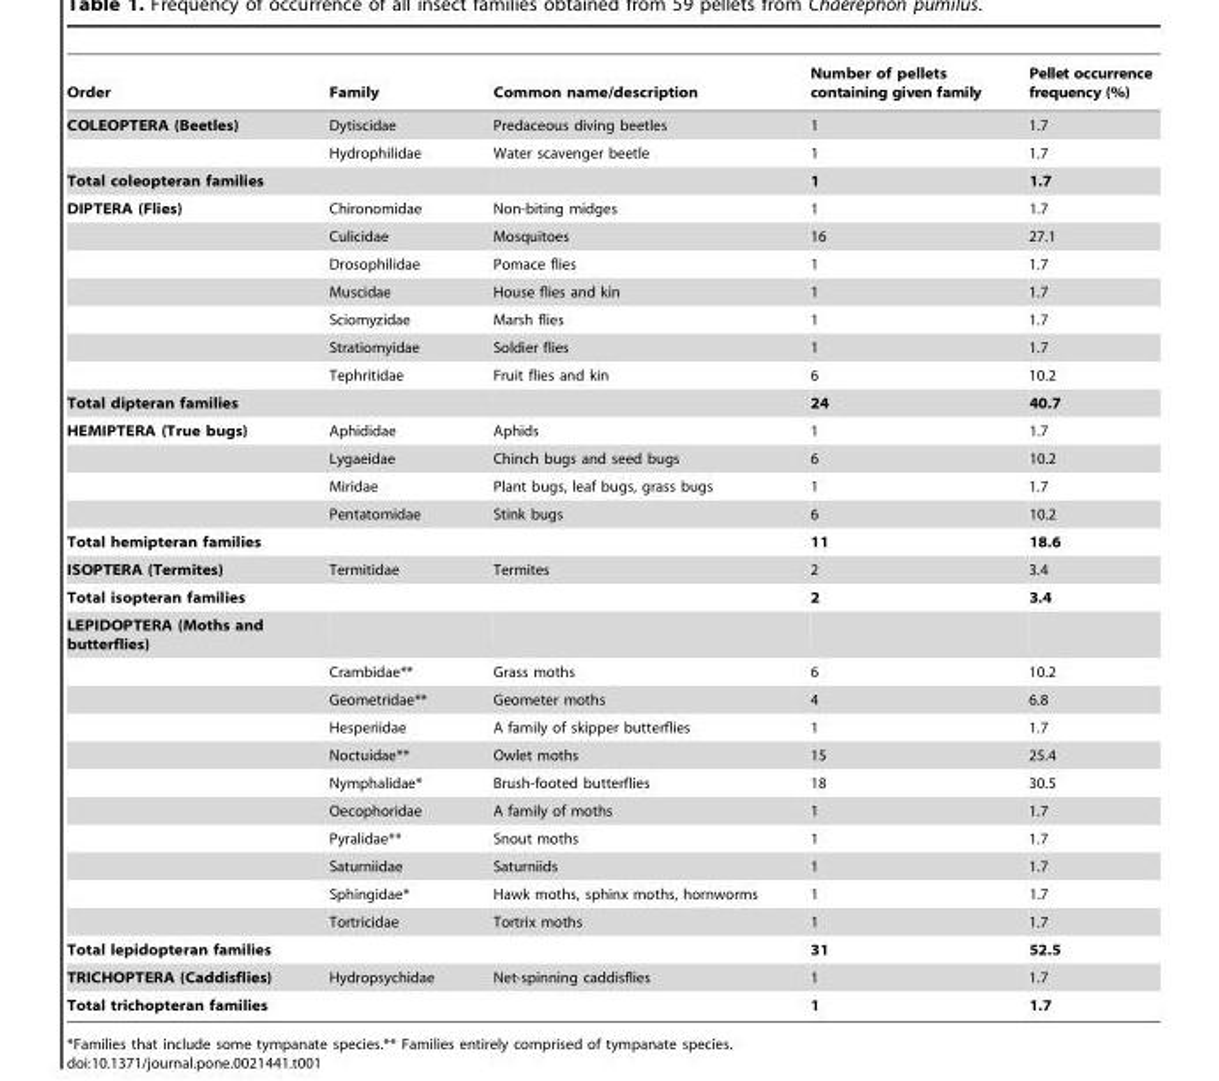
<table><thead><tr><td>Order</td><td>Family</td><td>Common name/description</td><td>Number of pellets containing given family</td><td>Pellet occurrence frequency (%)</td></tr></thead><tbody><tr><td rowspan="2">COLEOPTERA (Beetles)</td><td>Dytiscidae</td><td>Predaceous diving beetles</td><td>1</td><td>1.7</td></tr><tr><td>Hydrophilidae</td><td>Water scavenger beetle</td><td>1</td><td>1.7</td></tr><tr><td colspan="2">Total coleopteran families</td><td></td><td>1</td><td>1.7</td></tr><tr><td rowspan="7">DIPTERA (Flies)</td><td>Chironomidae</td><td>Non-biting midges</td><td>1</td><td>1.7</td></tr><tr><td>Culicidae</td><td>Mosquitoes</td><td>16</td><td>27.1</td></tr><tr><td>Drosophilidae</td><td>Pomace flies</td><td>1</td><td>1.7</td></tr><tr><td>Muscidae</td><td>House flies and kin</td><td>1</td><td>1.7</td></tr><tr><td>Sciomyzidae</td><td>Marsh flies</td><td>1</td><td>1.7</td></tr><tr><td>Stratiomyidae</td><td>Soldier flies</td><td>1</td><td>1.7</td></tr><tr><td>Tephritidae</td><td>Fruit flies and kin</td><td>6</td><td>10.2</td></tr><tr><td colspan="2">Total dipteran families</td><td></td><td>24</td><td>40.7</td></tr><tr><td rowspan="4">HEMIPTERA (True bugs)</td><td>Aphididae</td><td>Aphids</td><td>1</td><td>1.7</td></tr><tr><td>Lygaeidae</td><td>Chinch bugs and seed bugs</td><td>6</td><td>10.2</td></tr><tr><td>Miridae</td><td>Plant bugs, leaf bugs, grass bugs</td><td>1</td><td>1.7</td></tr><tr><td>Pentatomidae</td><td>Stink bugs</td><td>6</td><td>10.2</td></tr><tr><td colspan="2">Total hemipteran families</td><td></td><td>11</td><td>18.6</td></tr><tr><td>ISOPTERA (Termites)</td><td>Termitidae</td><td>Termites</td><td>2</td><td>3.4</td></tr><tr><td colspan="2">Total isopteran families</td><td></td><td>2</td><td>3.4</td></tr><tr><td colspan="5">LEPIDOPTERA (Moths and butterflies)</td></tr><tr><td></td><td>Crambidae**</td><td>Grass moths</td><td>6</td><td>10.2</td></tr><tr><td></td><td>Geometridae**</td><td>Geometer moths</td><td>4</td><td>6.8</td></tr><tr><td></td><td>Hesperiidae</td><td>A family of skipper butterflies</td><td>1</td><td>1.7</td></tr><tr><td></td><td>Noctuidae**</td><td>Owlet moths</td><td>15</td><td>25.4</td></tr><tr><td></td><td>Nymphalidae*</td><td>Brush-footed butterflies</td><td>18</td><td>30.5</td></tr><tr><td></td><td>Oecophoridae</td><td>A family of moths</td><td>1</td><td>1.7</td></tr><tr><td></td><td>Pyralidae**</td><td>Snout moths</td><td>1</td><td>1.7</td></tr><tr><td></td><td>Saturniidae</td><td>Saturniids</td><td>1</td><td>1.7</td></tr><tr><td></td><td>Sphingidae*</td><td>Hawk moths, sphinx moths, hornworms</td><td>1</td><td>1.7</td></tr><tr><td></td><td>Tortricidae</td><td>Tortrix moths</td><td>1</td><td>1.7</td></tr><tr><td colspan="2">Total lepidopteran families</td><td></td><td>31</td><td>52.5</td></tr><tr><td>TRICHOPTERA (Caddisflies)</td><td>Hydropsychidae</td><td>Net-spinning caddisflies</td><td>1</td><td>1.7</td></tr><tr><td colspan="2">Total trichopteran families</td><td></td><td>1</td><td>1.7</td></tr></tbody></table>